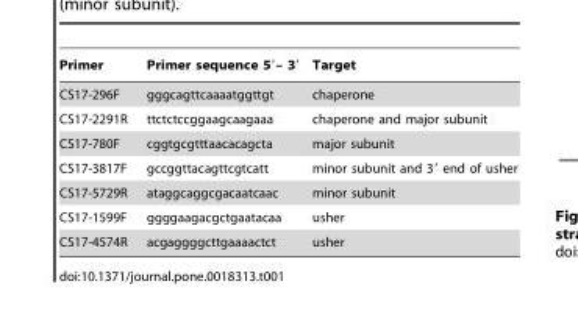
<table><thead><tr><td>Primer</td><td>Primer sequence 5′– 3′</td><td>Target</td></tr></thead><tbody><tr><td>CS17-296F</td><td>gggcagttcaaaatggttgt</td><td>chaperone</td></tr><tr><td>CS17-2291R</td><td>ttctctccggaagcaagaaa</td><td>chaperone and major subunit</td></tr><tr><td>CS17-780F</td><td>cggtgcgtttaacacagcta</td><td>major subunit</td></tr><tr><td>CS17-3817F</td><td>gccggttacagttcgtcatt</td><td>minor subunit and 3′ end of usher</td></tr><tr><td>CS17-5729R</td><td>ataggcaggcgacaatcaac</td><td>minor subunit</td></tr><tr><td>CS17-1599F</td><td>ggggaagacgctgaatacaa</td><td>usher</td></tr><tr><td>CS17-4574R</td><td>acgaggggcttgaaaactct</td><td>usher</td></tr></tbody></table>